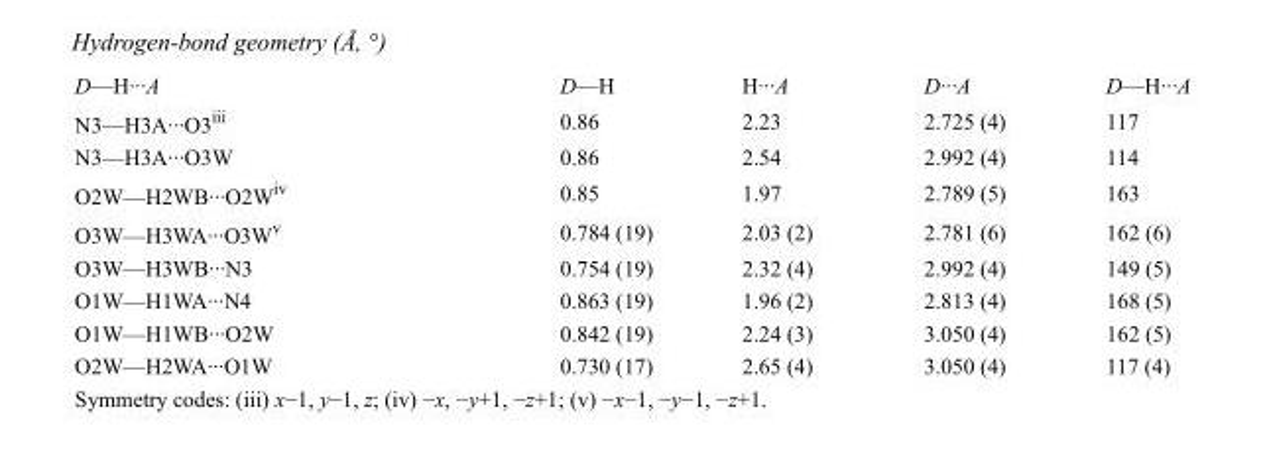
<table><tbody><tr><td>D—H···A</td><td>D—H</td><td>H···A</td><td>D···A</td><td>D—H···A</td></tr><tr><td>N3—H3A···O3<sup>iii</sup></td><td>0.86</td><td>2.23</td><td>2.725 (4)</td><td>117</td></tr><tr><td>N3—H3A···O3W</td><td>0.86</td><td>2.54</td><td>2.992 (4)</td><td>114</td></tr><tr><td>O2W—H2WB···O2W<sup>iv</sup></td><td>0.85</td><td>1.97</td><td>2.789 (5)</td><td>163</td></tr><tr><td>O3W—H3WA···O3W<sup>v</sup></td><td>0.784 (19)</td><td>2.03 (2)</td><td>2.781 (6)</td><td>162 (6)</td></tr><tr><td>O3W—H3WB···N3</td><td>0.754 (19)</td><td>2.32 (4)</td><td>2.992 (4)</td><td>149 (5)</td></tr><tr><td>O1W—H1WA···N4</td><td>0.863 (19)</td><td>1.96 (2)</td><td>2.813 (4)</td><td>168 (5)</td></tr><tr><td>O1W—H1WB···O2W</td><td>0.842 (19)</td><td>2.24 (3)</td><td>3.050 (4)</td><td>162 (5)</td></tr><tr><td>O2W—H2WA···O1W</td><td>0.730 (17)</td><td>2.65 (4)</td><td>3.050 (4)</td><td>117 (4)</td></tr></tbody></table>